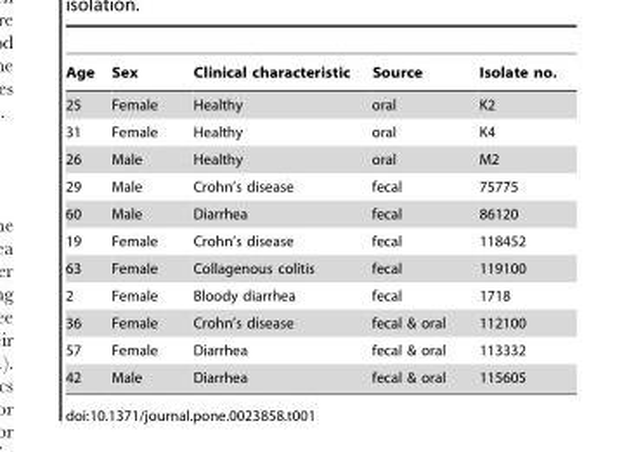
<table><thead><tr><td>Age</td><td>Sex</td><td>Clinical characteristic</td><td>Source</td><td>Isolate no.</td></tr></thead><tbody><tr><td>25</td><td>Female</td><td>Healthy</td><td>oral</td><td>K2</td></tr><tr><td>31</td><td>Female</td><td>Healthy</td><td>oral</td><td>K4</td></tr><tr><td>26</td><td>Male</td><td>Healthy</td><td>oral</td><td>M2</td></tr><tr><td>29</td><td>Male</td><td>Crohn’s disease</td><td>fecal</td><td>75775</td></tr><tr><td>60</td><td>Male</td><td>Diarrhea</td><td>fecal</td><td>86120</td></tr><tr><td>19</td><td>Female</td><td>Crohn’s disease</td><td>fecal</td><td>118452</td></tr><tr><td>63</td><td>Female</td><td>Collagenous colitis</td><td>fecal</td><td>119100</td></tr><tr><td>2</td><td>Female</td><td>Bloody diarrhea</td><td>fecal</td><td>1718</td></tr><tr><td>36</td><td>Female</td><td>Crohn’s disease</td><td>fecal &amp; oral</td><td>112100</td></tr><tr><td>57</td><td>Female</td><td>Diarrhea</td><td>fecal &amp; oral</td><td>113332</td></tr><tr><td>42</td><td>Male</td><td>Diarrhea</td><td>fecal &amp; oral</td><td>115605</td></tr></tbody></table>